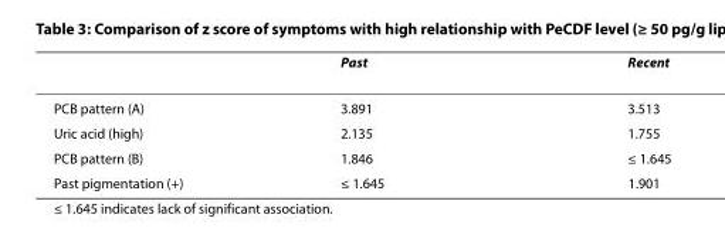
<table><thead><tr><td></td><td>Past</td><td>Recent</td></tr></thead><tbody><tr><td>PCB pattern (A)</td><td>3.891</td><td>3.513</td></tr><tr><td>Uric acid (high)</td><td>2.135</td><td>1.755</td></tr><tr><td>PCB pattern (B)</td><td>1.846</td><td>≤ 1.645</td></tr><tr><td>Past pigmentation (+)</td><td>≤ 1.645</td><td>1.901</td></tr></tbody></table>